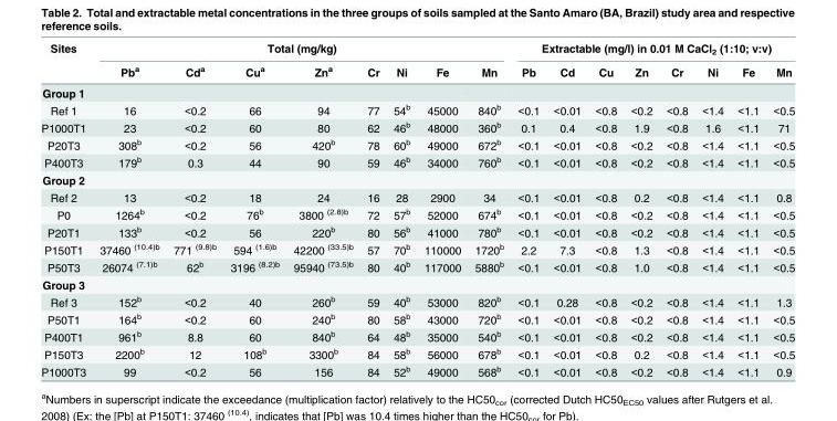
<table><thead><tr><td rowspan="2">Sites</td><td colspan="8">Total (mg/kg)</td><td colspan="8">Extractable (mg/l) in 0.01 M CaCl<sub>2</sub> (1:10; v:v)</td></tr><tr><td>Pb<sup>a</sup></td><td>Cd<sup>a</sup></td><td>Cu<sup>a</sup></td><td>Zn<sup>a</sup></td><td>Cr</td><td>Ni</td><td>Fe</td><td>Mn</td><td>Pb</td><td>Cd</td><td>Cu</td><td>Zn</td><td>Cr</td><td>Ni</td><td>Fe</td><td>Mn</td></tr></thead><tbody><tr><td colspan="17">Group 1</td></tr><tr><td>Ref 1</td><td>16</td><td>&lt;0.2</td><td>66</td><td>94</td><td>77</td><td>54<sup>b</sup></td><td>45000</td><td>840<sup>b</sup></td><td>&lt;0.1</td><td>&lt;0.01</td><td>&lt;0.8</td><td>&lt;0.2</td><td>&lt;0.8</td><td>&lt;1.4</td><td>&lt;1.1</td><td>&lt;0.5</td></tr><tr><td>P1000T1</td><td>23</td><td>&lt;0.2</td><td>60</td><td>80</td><td>62</td><td>46<sup>b</sup></td><td>48000</td><td>360<sup>b</sup></td><td>0.1</td><td>0.4</td><td>&lt;0.8</td><td>1.9</td><td>&lt;0.8</td><td>1.6</td><td>&lt;1.1</td><td>71</td></tr><tr><td>P20T3</td><td>308<sup>b</sup></td><td>&lt;0.2</td><td>56</td><td>420<sup>b</sup></td><td>78</td><td>60<sup>b</sup></td><td>49000</td><td>672<sup>b</sup></td><td>&lt;0.1</td><td>&lt;0.01</td><td>&lt;0.8</td><td>&lt;0.2</td><td>&lt;0.8</td><td>&lt;1.4</td><td>&lt;1.1</td><td>&lt;0.5</td></tr><tr><td>P400T3</td><td>179<sup>b</sup></td><td>0.3</td><td>44</td><td>90</td><td>59</td><td>46<sup>b</sup></td><td>34000</td><td>760<sup>b</sup></td><td>&lt;0.1</td><td>&lt;0.01</td><td>&lt;0.8</td><td>&lt;0.2</td><td>&lt;0.8</td><td>&lt;1.4</td><td>&lt;1.1</td><td>&lt;0.5</td></tr><tr><td colspan="17">Group 2</td></tr><tr><td>Ref 2</td><td>13</td><td>&lt;0.2</td><td>18</td><td>24</td><td>16</td><td>28</td><td>2900</td><td>34</td><td>&lt;0.1</td><td>&lt;0.01</td><td>&lt;0.8</td><td>0.2</td><td>&lt;0.8</td><td>&lt;1.4</td><td>&lt;1.1</td><td>0.8</td></tr><tr><td>P0</td><td>1264<sup>b</sup></td><td>&lt;0.2</td><td>76<sup>b</sup></td><td>3800 <sup>(2.8)b</sup></td><td>72</td><td>57<sup>b</sup></td><td>52000</td><td>674<sup>b</sup></td><td>&lt;0.1</td><td>&lt;0.01</td><td>&lt;0.8</td><td>&lt;0.2</td><td>&lt;0.8</td><td>&lt;1.4</td><td>&lt;1.1</td><td>&lt;0.5</td></tr><tr><td>P20T1</td><td>133<sup>b</sup></td><td>&lt;0.2</td><td>56</td><td>220<sup>b</sup></td><td>80</td><td>56<sup>b</sup></td><td>41000</td><td>780<sup>b</sup></td><td>&lt;0.1</td><td>&lt;0.01</td><td>&lt;0.8</td><td>&lt;0.2</td><td>&lt;0.8</td><td>&lt;1.4</td><td>&lt;1.1</td><td>&lt;0.5</td></tr><tr><td>P150T1</td><td>37460 <sup>(10.4)b</sup></td><td>771 <sup>(9.8)b</sup></td><td>594 <sup>(1.6)b</sup></td><td>42200 <sup>(33.5)b</sup></td><td>57</td><td>70<sup>b</sup></td><td>110000</td><td>1720<sup>b</sup></td><td>2.2</td><td>7.3</td><td>&lt;0.8</td><td>1.3</td><td>&lt;0.8</td><td>&lt;1.4</td><td>&lt;1.1</td><td>&lt;0.5</td></tr><tr><td>P50T3</td><td>26074 <sup>(7.1)b</sup></td><td>62<sup>b</sup></td><td>3196 <sup>(8.2)b</sup></td><td>95940 <sup>(73.5)b</sup></td><td>80</td><td>40<sup>b</sup></td><td>117000</td><td>5880<sup>b</sup></td><td>&lt;0.1</td><td>&lt;0.01</td><td>&lt;0.8</td><td>1.0</td><td>&lt;0.8</td><td>&lt;1.4</td><td>&lt;1.1</td><td>&lt;0.5</td></tr><tr><td colspan="17">Group 3</td></tr><tr><td>Ref 3</td><td>152<sup>b</sup></td><td>&lt;0.2</td><td>40</td><td>260<sup>b</sup></td><td>59</td><td>40<sup>b</sup></td><td>53000</td><td>820<sup>b</sup></td><td>&lt;0.1</td><td>0.28</td><td>&lt;0.8</td><td>&lt;0.2</td><td>&lt;0.8</td><td>&lt;1.4</td><td>&lt;1.1</td><td>1.3</td></tr><tr><td>P50T1</td><td>164<sup>b</sup></td><td>&lt;0.2</td><td>60</td><td>240<sup>b</sup></td><td>80</td><td>58<sup>b</sup></td><td>43000</td><td>720<sup>b</sup></td><td>&lt;0.1</td><td>&lt;0.01</td><td>&lt;0.8</td><td>&lt;0.2</td><td>&lt;0.8</td><td>&lt;1.4</td><td>&lt;1.1</td><td>&lt;0.5</td></tr><tr><td>P400T1</td><td>961<sup>b</sup></td><td>8.8</td><td>60</td><td>840<sup>b</sup></td><td>64</td><td>48<sup>b</sup></td><td>35000</td><td>540<sup>b</sup></td><td>&lt;0.1</td><td>&lt;0.01</td><td>&lt;0.8</td><td>&lt;0.2</td><td>&lt;0.8</td><td>&lt;1.4</td><td>&lt;1.1</td><td>&lt;0.5</td></tr><tr><td>P150T3</td><td>2200<sup>b</sup></td><td>12</td><td>108<sup>b</sup></td><td>3300<sup>b</sup></td><td>84</td><td>58<sup>b</sup></td><td>56000</td><td>678<sup>b</sup></td><td>&lt;0.1</td><td>&lt;0.01</td><td>&lt;0.8</td><td>0.2</td><td>&lt;0.8</td><td>&lt;1.4</td><td>&lt;1.1</td><td>&lt;0.5</td></tr><tr><td>P1000T3</td><td>99</td><td>&lt;0.2</td><td>56</td><td>156</td><td>84</td><td>52<sup>b</sup></td><td>49000</td><td>568<sup>b</sup></td><td>&lt;0.1</td><td>&lt;0.01</td><td>&lt;0.8</td><td>&lt;0.2</td><td>&lt;0.8</td><td>&lt;1.4</td><td>&lt;1.1</td><td>0.9</td></tr></tbody></table>